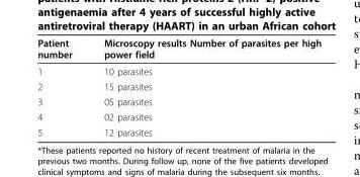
<table><thead><tr><td>Patient number</td><td>Microscopy results Number of parasites per high power field</td></tr></thead><tbody><tr><td>1</td><td>10 parasites</td></tr><tr><td>2</td><td>15 parasites</td></tr><tr><td>3</td><td>05 parasites</td></tr><tr><td>4</td><td>02 parasites</td></tr><tr><td>5</td><td>12 parasites</td></tr></tbody></table>